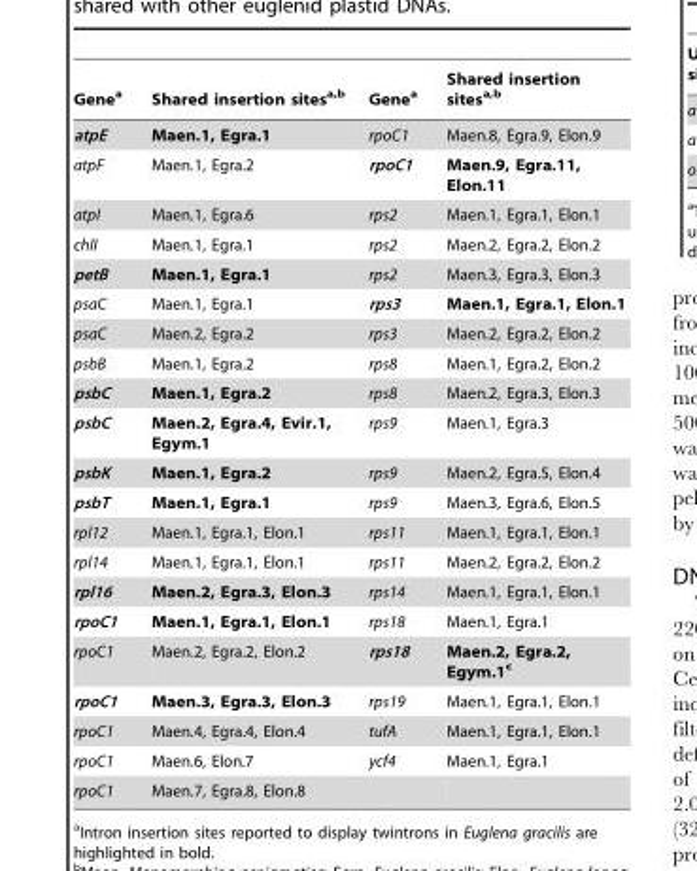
<table><thead><tr><td>Gene<sup>a</sup></td><td>Shared insertion sitesa,b</td><td>Gene<sup>a</sup></td><td>Shared insertion sitesa,b</td></tr></thead><tbody><tr><td>atpE</td><td>Maen.1, Egra.1</td><td>rpoC1</td><td>Maen.8, Egra.9, Elon.9</td></tr><tr><td>atpF</td><td>Maen.1, Egra.2</td><td>rpoC1</td><td>Maen.9, Egra.11, Elon.11</td></tr><tr><td>atpI</td><td>Maen.1, Egra.6</td><td>rps2</td><td>Maen.1, Egra.1, Elon.1</td></tr><tr><td>chlI</td><td>Maen.1, Egra.1</td><td>rps2</td><td>Maen.2, Egra.2, Elon.2</td></tr><tr><td>petB</td><td>Maen.1, Egra.1</td><td>rps2</td><td>Maen.3, Egra.3, Elon.3</td></tr><tr><td>psaC</td><td>Maen.1, Egra.1</td><td>rps3</td><td>Maen.1, Egra.1, Elon.1</td></tr><tr><td>psaC</td><td>Maen.2, Egra.2</td><td>rps3</td><td>Maen.2, Egra.2, Elon.2</td></tr><tr><td>psbB</td><td>Maen.1, Egra.2</td><td>rps8</td><td>Maen.1, Egra.2, Elon.2</td></tr><tr><td>psbC</td><td>Maen.1, Egra.2</td><td>rps8</td><td>Maen.2, Egra.3, Elon.3</td></tr><tr><td>psbC</td><td>Maen.2, Egra.4, Evir.1, Egym.1</td><td>rps9</td><td>Maen.1, Egra.3</td></tr><tr><td>psbK</td><td>Maen.1, Egra.2</td><td>rps9</td><td>Maen.2, Egra.5, Elon.4</td></tr><tr><td>psbT</td><td>Maen.1, Egra.1</td><td>rps9</td><td>Maen.3, Egra.6, Elon.5</td></tr><tr><td>rpl12</td><td>Maen.1, Egra.1, Elon.1</td><td>rps11</td><td>Maen.1, Egra.1, Elon.1</td></tr><tr><td>rpl14</td><td>Maen.1, Egra.1, Elon.1</td><td>rps11</td><td>Maen.2, Egra.2, Elon.2</td></tr><tr><td>rpl16</td><td>Maen.2, Egra.3, Elon.3</td><td>rps14</td><td>Maen.1, Egra.1, Elon.1</td></tr><tr><td>rpoC1</td><td>Maen.1, Egra.1, Elon.1</td><td>rps18</td><td>Maen.1, Egra.1</td></tr><tr><td>rpoC1</td><td>Maen.2, Egra.2, Elon.2</td><td>rps18</td><td>Maen.2, Egra.2, Egym.1c</td></tr><tr><td>rpoC1</td><td>Maen.3, Egra.3, Elon.3</td><td>rps19</td><td>Maen.1, Egra.1, Elon.1</td></tr><tr><td>rpoC1</td><td>Maen.4, Egra.4, Elon.4</td><td>tufA</td><td>Maen.1, Egra.1, Elon.1</td></tr><tr><td>rpoC1</td><td>Maen.6, Elon.7</td><td>ycf4</td><td>Maen.1, Egra.1</td></tr><tr><td>rpoC1</td><td>Maen.7, Egra.8, Elon.8</td><td></td><td></td></tr></tbody></table>